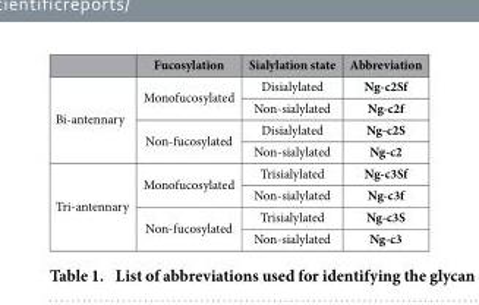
<table><thead><tr><td></td><td>Fucosylation</td><td>Sialylation state</td><td>Abbreviation</td></tr></thead><tbody><tr><td rowspan="4">Bi-antennary</td><td rowspan="2">Monofucosylated</td><td>Disialylated</td><td>Ng-c2Sf</td></tr><tr><td>Non-sialylated</td><td>Ng-c2f</td></tr><tr><td rowspan="2">Non-fucosylated</td><td>Disialylated</td><td>Ng-c2S</td></tr><tr><td>Non-sialylated</td><td>Ng-c2</td></tr><tr><td rowspan="4">Tri-antennary</td><td rowspan="2">Monofucosylated</td><td>Trisialylated</td><td>Ng-c3Sf</td></tr><tr><td>Non-sialylated</td><td>Ng-c3f</td></tr><tr><td rowspan="2">Non-fucosylated</td><td>Trisialylated</td><td>Ng-c3S</td></tr><tr><td>Non-sialylated</td><td>Ng-c3</td></tr></tbody></table>